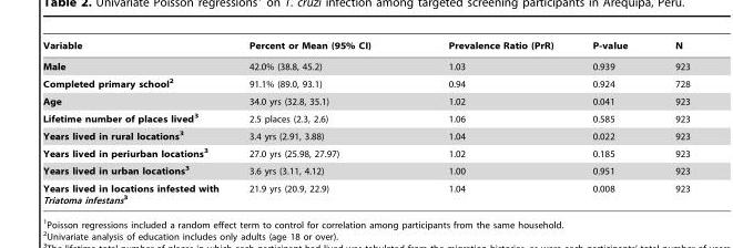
<table><thead><tr><td>Variable</td><td>Percent or Mean (95% CI)</td><td>Prevalence Ratio (PrR)</td><td>P-value</td><td>N</td></tr></thead><tbody><tr><td>Male</td><td>42.0% (38.8, 45.2)</td><td>1.03</td><td>0.939</td><td>923</td></tr><tr><td>Completed primary school2</td><td>91.1% (89.0, 93.1)</td><td>0.94</td><td>0.924</td><td>728</td></tr><tr><td>Age</td><td>34.0 yrs (32.8, 35.1)</td><td>1.02</td><td>0.041</td><td>923</td></tr><tr><td>Lifetime number of places lived3</td><td>2.5 places (2.3, 2.6)</td><td>1.06</td><td>0.585</td><td>923</td></tr><tr><td>Years lived in rural locations3</td><td>3.4 yrs (2.91, 3.88)</td><td>1.04</td><td>0.022</td><td>923</td></tr><tr><td>Years lived in periurban locations3</td><td>27.0 yrs (25.98, 27.97)</td><td>1.02</td><td>0.185</td><td>923</td></tr><tr><td>Years lived in urban locations3</td><td>3.6 yrs (3.11, 4.12)</td><td>1.00</td><td>0.951</td><td>923</td></tr><tr><td>Years lived in locations infested with Triatoma infestans3</td><td>21.9 yrs (20.9, 22.9)</td><td>1.04</td><td>0.008</td><td>923</td></tr></tbody></table>